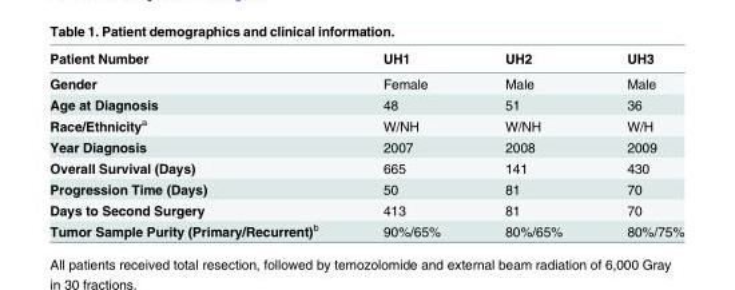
<table><thead><tr><td>Patient Number</td><td>UH1</td><td>UH2</td><td>UH3</td></tr></thead><tbody><tr><td>Gender</td><td>Female</td><td>Male</td><td>Male</td></tr><tr><td>Age at Diagnosis</td><td>48</td><td>51</td><td>36</td></tr><tr><td>Race/Ethnicity<sup>a</sup></td><td>W/NH</td><td>W/NH</td><td>W/H</td></tr><tr><td>Year Diagnosis</td><td>2007</td><td>2008</td><td>2009</td></tr><tr><td>Overall Survival (Days)</td><td>665</td><td>141</td><td>430</td></tr><tr><td>Progression Time (Days)</td><td>50</td><td>81</td><td>70</td></tr><tr><td>Days to Second Surgery</td><td>413</td><td>81</td><td>70</td></tr><tr><td>Tumor Sample Purity (Primary/Recurrent)<sup>b</sup></td><td>90%/65%</td><td>80%/65%</td><td>80%/75%</td></tr></tbody></table>